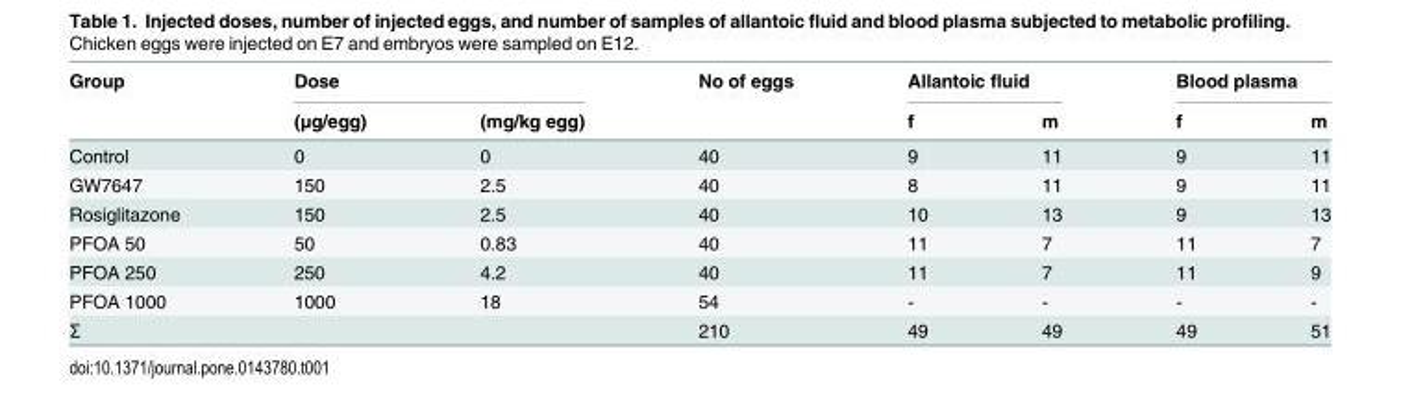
<table><thead><tr><td rowspan="2">Group</td><td colspan="2">Dose</td><td rowspan="2">No of eggs</td><td colspan="2">Allantoic fluid</td><td colspan="2">Blood plasma</td></tr><tr><td>(μg/egg)</td><td>(mg/kg egg)</td><td>f</td><td>m</td><td>f</td><td>m</td></tr></thead><tbody><tr><td>Control</td><td>0</td><td>0</td><td>40</td><td>9</td><td>11</td><td>9</td><td>11</td></tr><tr><td>GW7647</td><td>150</td><td>2.5</td><td>40</td><td>8</td><td>11</td><td>9</td><td>11</td></tr><tr><td>Rosiglitazone</td><td>150</td><td>2.5</td><td>40</td><td>10</td><td>13</td><td>9</td><td>13</td></tr><tr><td>PFOA 50</td><td>50</td><td>0.83</td><td>40</td><td>11</td><td>7</td><td>11</td><td>7</td></tr><tr><td>PFOA 250</td><td>250</td><td>4.2</td><td>40</td><td>11</td><td>7</td><td>11</td><td>9</td></tr><tr><td>PFOA 1000</td><td>1000</td><td>18</td><td>54</td><td>-</td><td>-</td><td>-</td><td>-</td></tr><tr><td>Σ</td><td></td><td></td><td>210</td><td>49</td><td>49</td><td>49</td><td>51</td></tr></tbody></table>